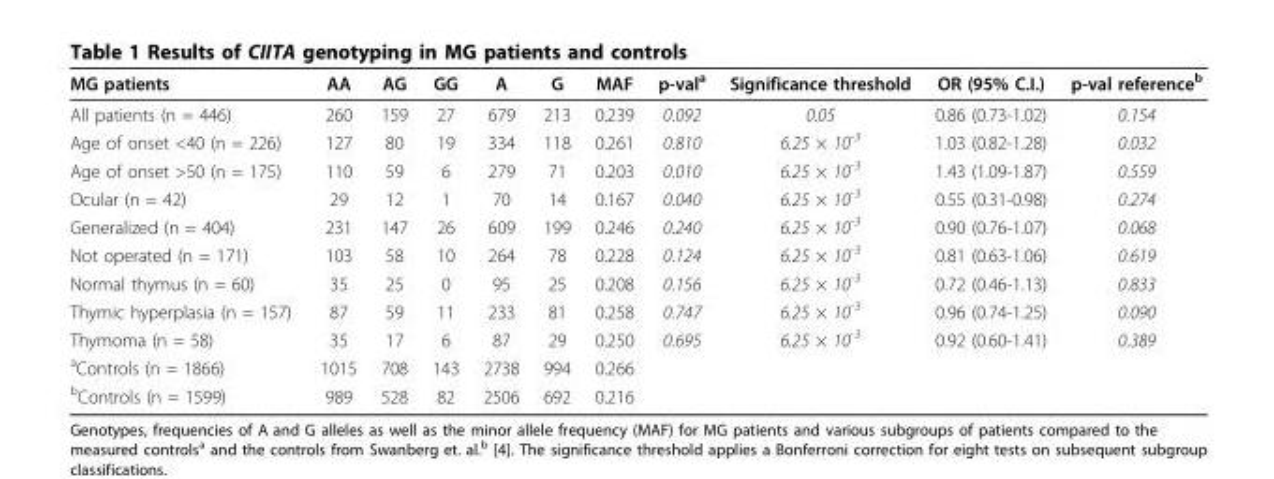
<table><thead><tr><td>MG patients</td><td>AA</td><td>AG</td><td>GG</td><td>A</td><td>G</td><td>MAF</td><td>p-val<sup>a</sup></td><td>Significance threshold</td><td>OR (95% C.I.)</td><td>p-val reference<sup>b</sup></td></tr></thead><tbody><tr><td>All patients (n = 446)</td><td>260</td><td>159</td><td>27</td><td>679</td><td>213</td><td>0.239</td><td>0.092</td><td>0.05</td><td>0.86 (0.73-1.02)</td><td>0.154</td></tr><tr><td>Age of onset &lt;40 (n = 226)</td><td>127</td><td>80</td><td>19</td><td>334</td><td>118</td><td>0.261</td><td>0.810</td><td>6.25 × 10<sup>-3</sup></td><td>1.03 (0.82-1.28)</td><td>0.032</td></tr><tr><td>Age of onset &gt;50 (n = 175)</td><td>110</td><td>59</td><td>6</td><td>279</td><td>71</td><td>0.203</td><td>0.010</td><td>6.25 × 10<sup>-3</sup></td><td>1.43 (1.09-1.87)</td><td>0.559</td></tr><tr><td>Ocular (n = 42)</td><td>29</td><td>12</td><td>1</td><td>70</td><td>14</td><td>0.167</td><td>0.040</td><td>6.25 × 10<sup>-3</sup></td><td>0.55 (0.31-0.98)</td><td>0.274</td></tr><tr><td>Generalized (n = 404)</td><td>231</td><td>147</td><td>26</td><td>609</td><td>199</td><td>0.246</td><td>0.240</td><td>6.25 × 10<sup>-3</sup></td><td>0.90 (0.76-1.07)</td><td>0.068</td></tr><tr><td>Not operated (n = 171)</td><td>103</td><td>58</td><td>10</td><td>264</td><td>78</td><td>0.228</td><td>0.124</td><td>6.25 × 10<sup>-3</sup></td><td>0.81 (0.63-1.06)</td><td>0.619</td></tr><tr><td>Normal thymus (n = 60)</td><td>35</td><td>25</td><td>0</td><td>95</td><td>25</td><td>0.208</td><td>0.156</td><td>6.25 × 10<sup>-3</sup></td><td>0.72 (0.46-1.13)</td><td>0.833</td></tr><tr><td>Thymic hyperplasia (n = 157)</td><td>87</td><td>59</td><td>11</td><td>233</td><td>81</td><td>0.258</td><td>0.747</td><td>6.25 × 10<sup>-3</sup></td><td>0.96 (0.74-1.25)</td><td>0.090</td></tr><tr><td>Thymoma (n = 58)</td><td>35</td><td>17</td><td>6</td><td>87</td><td>29</td><td>0.250</td><td>0.695</td><td>6.25 × 10<sup>-3</sup></td><td>0.92 (0.60-1.41)</td><td>0.389</td></tr><tr><td><sup>a</sup>Controls (n = 1866)</td><td>1015</td><td>708</td><td>143</td><td>2738</td><td>994</td><td>0.266</td><td></td><td></td><td></td><td></td></tr><tr><td><sup>b</sup>Controls (n = 1599)</td><td>989</td><td>528</td><td>82</td><td>2506</td><td>692</td><td>0.216</td><td></td><td></td><td></td><td></td></tr></tbody></table>